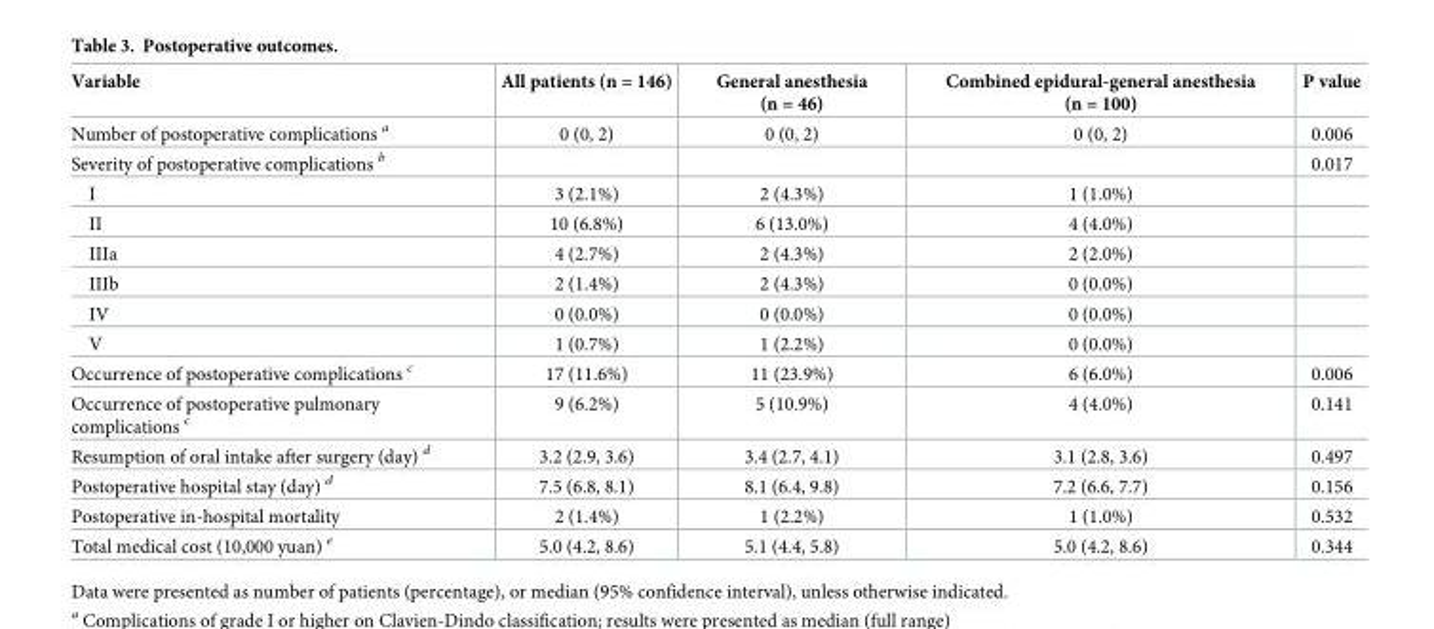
<table><thead><tr><td>Variable</td><td>All patients (n = 146)</td><td>General anesthesia (n = 46)</td><td>Combined epidural-general anesthesia (n = 100)</td><td>P value</td></tr></thead><tbody><tr><td>Number of postoperative complications <sup>a</sup></td><td>0 (0, 2)</td><td>0 (0, 2)</td><td>0 (0, 2)</td><td>0.006</td></tr><tr><td>Severity of postoperative complications <sup>b</sup></td><td></td><td></td><td></td><td>0.017</td></tr><tr><td>I</td><td>3 (2.1%)</td><td>2 (4.3%)</td><td>1 (1.0%)</td><td></td></tr><tr><td>II</td><td>10 (6.8%)</td><td>6 (13.0%)</td><td>4 (4.0%)</td><td></td></tr><tr><td>IIIa</td><td>4 (2.7%)</td><td>2 (4.3%)</td><td>2 (2.0%)</td><td></td></tr><tr><td>IIIb</td><td>2 (1.4%)</td><td>2 (4.3%)</td><td>0 (0.0%)</td><td></td></tr><tr><td>IV</td><td>0 (0.0%)</td><td>0 (0.0%)</td><td>0 (0.0%)</td><td></td></tr><tr><td>V</td><td>1 (0.7%)</td><td>1 (2.2%)</td><td>0 (0.0%)</td><td></td></tr><tr><td>Occurrence of postoperative complications <sup>c</sup></td><td>17 (11.6%)</td><td>11 (23.9%)</td><td>6 (6.0%)</td><td>0.006</td></tr><tr><td>Occurrence of postoperative pulmonary complications <sup>c</sup></td><td>9 (6.2%)</td><td>5 (10.9%)</td><td>4 (4.0%)</td><td>0.141</td></tr><tr><td>Resumption of oral intake after surgery (day) <sup>d</sup></td><td>3.2 (2.9, 3.6)</td><td>3.4 (2.7, 4.1)</td><td>3.1 (2.8, 3.6)</td><td>0.497</td></tr><tr><td>Postoperative hospital stay (day) <sup>d</sup></td><td>7.5 (6.8, 8.1)</td><td>8.1 (6.4, 9.8)</td><td>7.2 (6.6, 7.7)</td><td>0.156</td></tr><tr><td>Postoperative in-hospital mortality</td><td>2 (1.4%)</td><td>1 (2.2%)</td><td>1 (1.0%)</td><td>0.532</td></tr><tr><td>Total medical cost (10,000 yuan) <sup>e</sup></td><td>5.0 (4.2, 8.6)</td><td>5.1 (4.4, 5.8)</td><td>5.0 (4.2, 8.6)</td><td>0.344</td></tr></tbody></table>